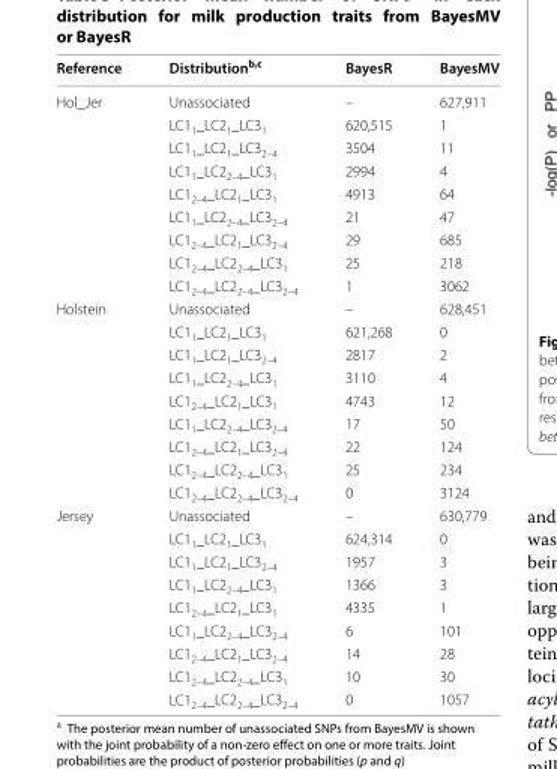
<table><thead><tr><td>Reference</td><td>Distribution<sup>b,c</sup></td><td>BayesR</td><td>BayesMV</td></tr></thead><tbody><tr><td rowspan="9">Hol_Jer</td><td>Unassociated</td><td>–</td><td>627,911</td></tr><tr><td>LC11_LC21_LC31</td><td>620,515</td><td>1</td></tr><tr><td>LC11_LC21_LC32–4</td><td>3504</td><td>11</td></tr><tr><td>LC11_LC22–4_LC31</td><td>2994</td><td>4</td></tr><tr><td>LC12–4_LC21_LC31</td><td>4913</td><td>64</td></tr><tr><td>LC11_LC22–4_LC32–4</td><td>21</td><td>47</td></tr><tr><td>LC12–4_LC21_LC32–4</td><td>29</td><td>685</td></tr><tr><td>LC12–4_LC22–4_LC31</td><td>25</td><td>218</td></tr><tr><td>LC12–4_LC22–4_LC32–4</td><td>1</td><td>3062</td></tr><tr><td rowspan="9">Holstein</td><td>Unassociated</td><td>–</td><td>628,451</td></tr><tr><td>LC11_LC21_LC31</td><td>621,268</td><td>0</td></tr><tr><td>LC11_LC21_LC32–4</td><td>2817</td><td>2</td></tr><tr><td>LC11_LC22–4_LC31</td><td>3110</td><td>4</td></tr><tr><td>LC12–4_LC21_LC31</td><td>4743</td><td>12</td></tr><tr><td>LC11_LC22–4_LC32–4</td><td>17</td><td>50</td></tr><tr><td>LC12–4_LC21_LC32–4</td><td>22</td><td>124</td></tr><tr><td>LC12–4_LC22–4_LC31</td><td>25</td><td>234</td></tr><tr><td>LC12–4_LC22–4_LC32–4</td><td>0</td><td>3124</td></tr><tr><td rowspan="9">Jersey</td><td>Unassociated</td><td>–</td><td>630,779</td></tr><tr><td>LC11_LC21_LC31</td><td>624,314</td><td>0</td></tr><tr><td>LC11_LC21_LC32–4</td><td>1957</td><td>3</td></tr><tr><td>LC11_LC22–4_LC31</td><td>1366</td><td>3</td></tr><tr><td>LC12–4_LC21_LC31</td><td>4335</td><td>1</td></tr><tr><td>LC11_LC22–4_LC32–4</td><td>6</td><td>101</td></tr><tr><td>LC12–4_LC21_LC32–4</td><td>14</td><td>28</td></tr><tr><td>LC12–4_LC22–4_LC31</td><td>10</td><td>30</td></tr><tr><td>LC12–4_LC22–4_LC32–4</td><td>0</td><td>1057</td></tr></tbody></table>